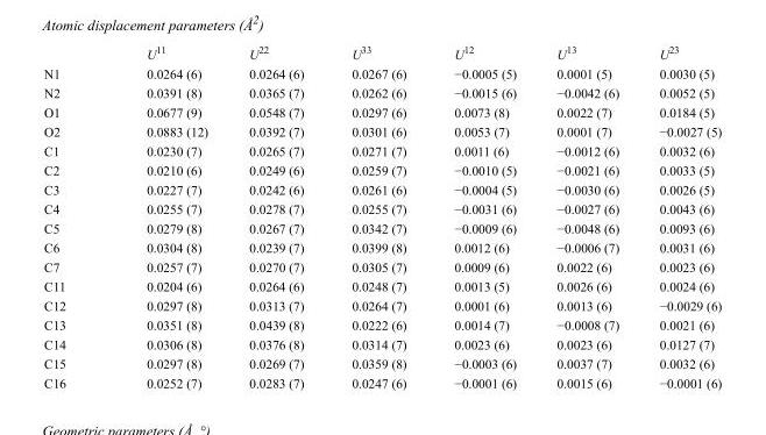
<table><thead><tr><td></td><td>U<sup>11</sup></td><td>U<sup>22</sup></td><td>U<sup>33</sup></td><td>U<sup>12</sup></td><td>U<sup>13</sup></td><td>U<sup>23</sup></td></tr></thead><tbody><tr><td>N1</td><td>0.0264 (6)</td><td>0.0264 (6)</td><td>0.0267 (6)</td><td>−0.0005 (5)</td><td>0.0001 (5)</td><td>0.0030 (5)</td></tr><tr><td>N2</td><td>0.0391 (8)</td><td>0.0365 (7)</td><td>0.0262 (6)</td><td>−0.0015 (6)</td><td>−0.0042 (6)</td><td>0.0052 (5)</td></tr><tr><td>O1</td><td>0.0677 (9)</td><td>0.0548 (7)</td><td>0.0297 (6)</td><td>0.0073 (8)</td><td>0.0022 (7)</td><td>0.0184 (5)</td></tr><tr><td>O2</td><td>0.0883 (12)</td><td>0.0392 (7)</td><td>0.0301 (6)</td><td>0.0053 (7)</td><td>0.0001 (7)</td><td>−0.0027 (5)</td></tr><tr><td>C1</td><td>0.0230 (7)</td><td>0.0265 (7)</td><td>0.0271 (7)</td><td>0.0011 (6)</td><td>−0.0012 (6)</td><td>0.0032 (6)</td></tr><tr><td>C2</td><td>0.0210 (6)</td><td>0.0249 (6)</td><td>0.0259 (7)</td><td>−0.0010 (5)</td><td>−0.0021 (6)</td><td>0.0033 (5)</td></tr><tr><td>C3</td><td>0.0227 (7)</td><td>0.0242 (6)</td><td>0.0261 (6)</td><td>−0.0004 (5)</td><td>−0.0030 (6)</td><td>0.0026 (5)</td></tr><tr><td>C4</td><td>0.0255 (7)</td><td>0.0278 (7)</td><td>0.0255 (7)</td><td>−0.0031 (6)</td><td>−0.0027 (6)</td><td>0.0043 (6)</td></tr><tr><td>C5</td><td>0.0279 (8)</td><td>0.0267 (7)</td><td>0.0342 (7)</td><td>−0.0009 (6)</td><td>−0.0048 (6)</td><td>0.0093 (6)</td></tr><tr><td>C6</td><td>0.0304 (8)</td><td>0.0239 (7)</td><td>0.0399 (8)</td><td>0.0012 (6)</td><td>−0.0006 (7)</td><td>0.0031 (6)</td></tr><tr><td>C7</td><td>0.0257 (7)</td><td>0.0270 (7)</td><td>0.0305 (7)</td><td>0.0009 (6)</td><td>0.0022 (6)</td><td>0.0023 (6)</td></tr><tr><td>C11</td><td>0.0204 (6)</td><td>0.0264 (6)</td><td>0.0248 (7)</td><td>0.0013 (5)</td><td>0.0026 (6)</td><td>0.0024 (6)</td></tr><tr><td>C12</td><td>0.0297 (8)</td><td>0.0313 (7)</td><td>0.0264 (7)</td><td>0.0001 (6)</td><td>0.0013 (6)</td><td>−0.0029 (6)</td></tr><tr><td>C13</td><td>0.0351 (8)</td><td>0.0439 (8)</td><td>0.0222 (6)</td><td>0.0014 (7)</td><td>−0.0008 (7)</td><td>0.0021 (6)</td></tr><tr><td>C14</td><td>0.0306 (8)</td><td>0.0376 (8)</td><td>0.0314 (7)</td><td>0.0023 (6)</td><td>0.0023 (6)</td><td>0.0127 (7)</td></tr><tr><td>C15</td><td>0.0297 (8)</td><td>0.0269 (7)</td><td>0.0359 (8)</td><td>−0.0003 (6)</td><td>0.0037 (7)</td><td>0.0032 (6)</td></tr><tr><td>C16</td><td>0.0252 (7)</td><td>0.0283 (7)</td><td>0.0247 (6)</td><td>−0.0001 (6)</td><td>0.0015 (6)</td><td>−0.0001 (6)</td></tr></tbody></table>